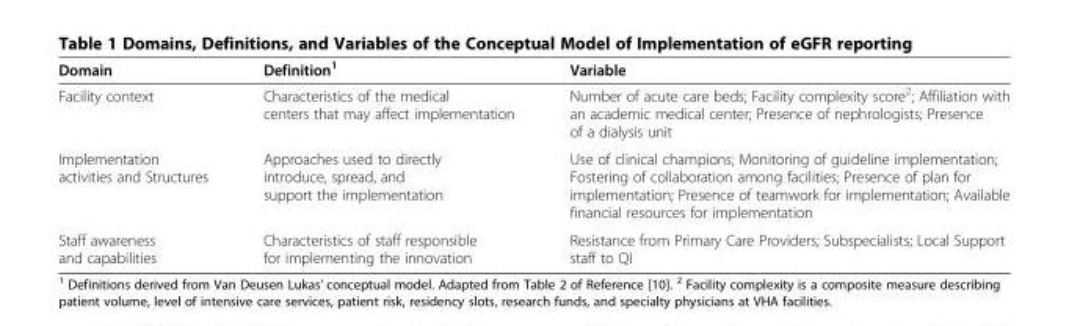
<table><thead><tr><td>Domain</td><td>Definition<sup>1</sup></td><td>Variable</td></tr></thead><tbody><tr><td>Facility context</td><td>Characteristics of the medical centers that may affect implementation</td><td>Number of acute care beds; Facility complexity score<sup>2</sup>; Affiliation with an academic medical center; Presence of nephrologists; Presence of a dialysis unit</td></tr><tr><td>Implementation activities and Structures</td><td>Approaches used to directly introduce, spread, and support the implementation</td><td>Use of clinical champions; Monitoring of guideline implementation; Fostering of collaboration among facilities; Presence of plan for implementation; Presence of teamwork for implementation; Available financial resources for implementation</td></tr><tr><td>Staff awareness and capabilities</td><td>Characteristics of staff responsible for implementing the innovation</td><td>Resistance from Primary Care Providers; Subspecialists; Local Support staff to QI</td></tr></tbody></table>